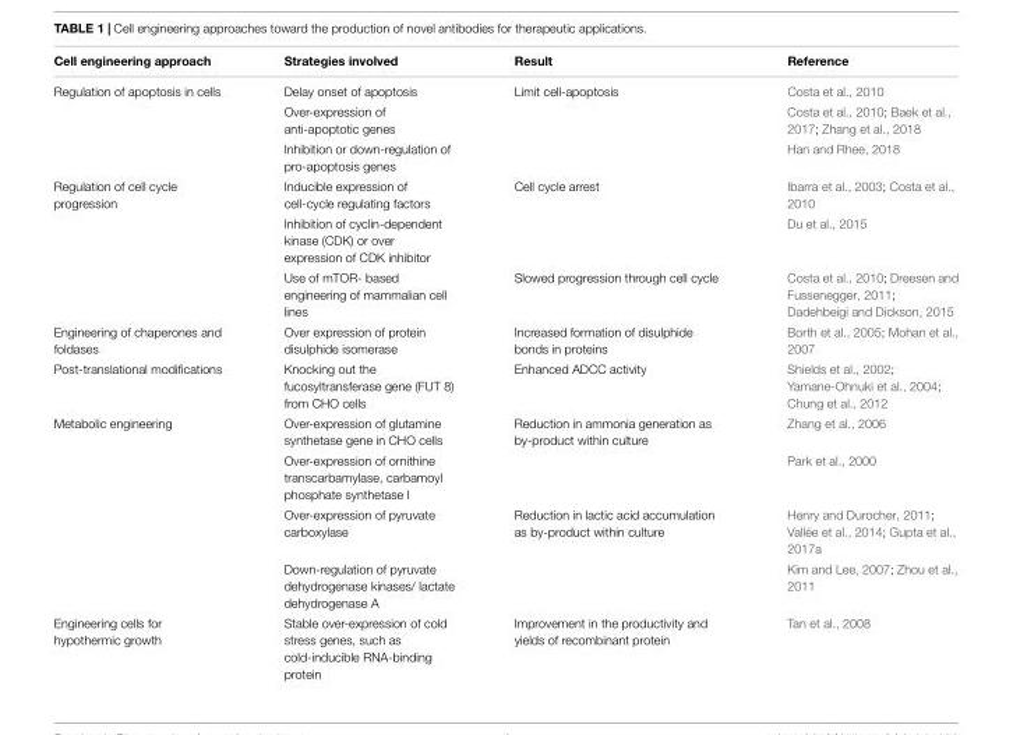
<table><thead><tr><td>Cell engineering approach</td><td>Strategies involved</td><td>Result</td><td>Reference</td></tr></thead><tbody><tr><td rowspan="3">Regulation of apoptosis in cells</td><td>Delay onset of apoptosis</td><td>Limit cell-apoptosis</td><td>Costa et al., 2010</td></tr><tr><td>Over-expression of anti-apoptotic genes</td><td></td><td>Costa et al., 2010; Baek et al., 2017; Zhang et al., 2018</td></tr><tr><td>Inhibition or down-regulation of pro-apoptosis genes</td><td></td><td>Han and Rhee, 2018</td></tr><tr><td rowspan="3">Regulation of cell cycle progression</td><td>Inducible expression of cell-cycle regulating factors</td><td>Cell cycle arrest</td><td>Ibarra et al., 2003; Costa et al., 2010</td></tr><tr><td>Inhibition of cyclin-dependent kinase (CDK) or over expression of CDK inhibitor</td><td></td><td>Du et al., 2015</td></tr><tr><td>Use of mTOR- based engineering of mammalian cell lines</td><td>Slowed progression through cell cycle</td><td>Costa et al., 2010; Dreesen and Fussenegger, 2011; Dadehbeigi and Dickson, 2015</td></tr><tr><td>Engineering of chaperones and foldases</td><td>Over expression of protein disulphide isomerase</td><td>Increased formation of disulphide bonds in proteins</td><td>Borth et al., 2005; Mohan et al., 2007</td></tr><tr><td>Post-translational modifications</td><td>Knocking out the fucosyltransferase gene (FUT 8) from CHO cells</td><td>Enhanced ADCC activity</td><td>Shields et al., 2002; Yamane-Ohnuki et al., 2004; Chung et al., 2012</td></tr><tr><td rowspan="4">Metabolic engineering</td><td>Over-expression of glutamine synthetase gene in CHO cells</td><td>Reduction in ammonia generation as by-product within culture</td><td>Zhang et al., 2006</td></tr><tr><td>Over-expression of ornithine transcarbamylase, carbamoyl phosphate synthetase I</td><td></td><td>Park et al., 2000</td></tr><tr><td>Over-expression of pyruvate carboxylase</td><td>Reduction in lactic acid accumulation as by-product within culture</td><td>Henry and Durocher, 2011; Vallée et al., 2014; Gupta et al., 2017a</td></tr><tr><td>Down-regulation of pyruvate dehydrogenase kinases/ lactate dehydrogenase A</td><td></td><td>Kim and Lee, 2007; Zhou et al., 2011</td></tr><tr><td>Engineering cells for hypothermic growth</td><td>Stable over-expression of cold stress genes, such as cold-inducible RNA-binding protein</td><td>Improvement in the productivity and yields of recombinant protein</td><td>Tan et al., 2008</td></tr></tbody></table>